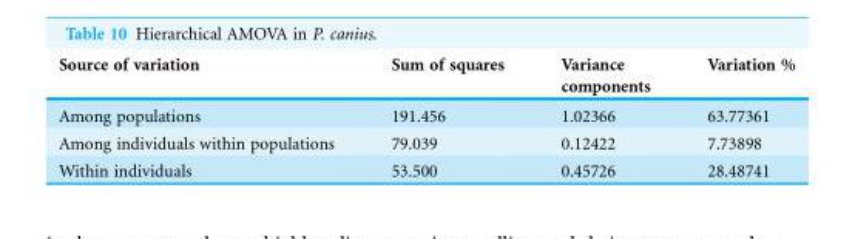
<table><thead><tr><td>Source of variation</td><td>Sum of squares</td><td>Variance components</td><td>Variation %</td></tr></thead><tbody><tr><td>Among populations</td><td>191.456</td><td>1.02366</td><td>63.77361</td></tr><tr><td>Among individuals within populations</td><td>79.039</td><td>0.12422</td><td>7.73898</td></tr><tr><td>Within individuals</td><td>53.500</td><td>0.45726</td><td>28.48741</td></tr></tbody></table>